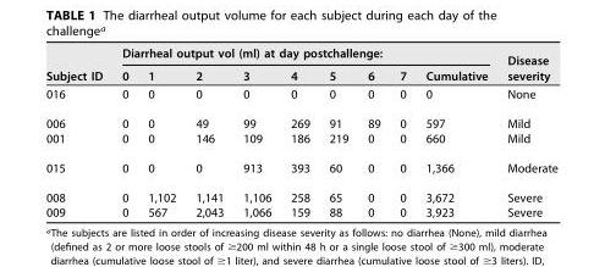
<table><thead><tr><td rowspan="2">Subject ID</td><td colspan="9">Diarrheal output vol (ml) at day postchallenge:</td><td rowspan="2">Disease severity</td></tr><tr><td>0</td><td>1</td><td>2</td><td>3</td><td>4</td><td>5</td><td>6</td><td>7</td><td>Cumulative</td></tr></thead><tbody><tr><td>016</td><td>0</td><td>0</td><td>0</td><td>0</td><td>0</td><td>0</td><td>0</td><td>0</td><td>0</td><td>None</td></tr><tr><td>006</td><td>0</td><td>0</td><td>49</td><td>99</td><td>269</td><td>91</td><td>89</td><td>0</td><td>597</td><td>Mild</td></tr><tr><td>001</td><td>0</td><td>0</td><td>146</td><td>109</td><td>186</td><td>219</td><td>0</td><td>0</td><td>660</td><td>Mild</td></tr><tr><td>015</td><td>0</td><td>0</td><td>0</td><td>913</td><td>393</td><td>60</td><td>0</td><td>0</td><td>1,366</td><td>Moderate</td></tr><tr><td>008</td><td>0</td><td>1,102</td><td>1,141</td><td>1,106</td><td>258</td><td>65</td><td>0</td><td>0</td><td>3,672</td><td>Severe</td></tr><tr><td>009</td><td>0</td><td>567</td><td>2,043</td><td>1,066</td><td>159</td><td>88</td><td>0</td><td>0</td><td>3,923</td><td>Severe</td></tr></tbody></table>